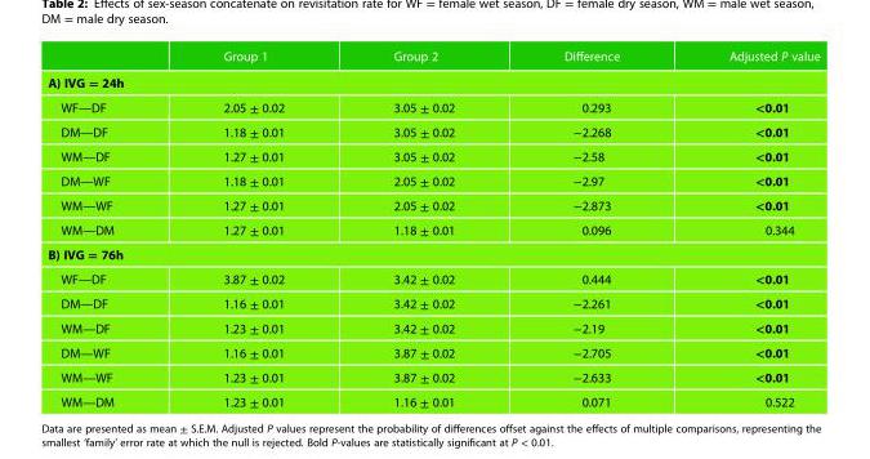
<table><thead><tr><td></td><td>Group 1</td><td>Group 2</td><td>Difference</td><td>Adjusted P value</td></tr></thead><tbody><tr><td colspan="5">A) IVG = 24h</td></tr><tr><td>WF—DF</td><td>2.05 ± 0.02</td><td>3.05 ± 0.02</td><td>0.293</td><td>&lt;0.01</td></tr><tr><td>DM—DF</td><td>1.18 ± 0.01</td><td>3.05 ± 0.02</td><td>−2.268</td><td>&lt;0.01</td></tr><tr><td>WM—DF</td><td>1.27 ± 0.01</td><td>3.05 ± 0.02</td><td>−2.58</td><td>&lt;0.01</td></tr><tr><td>DM—WF</td><td>1.18 ± 0.01</td><td>2.05 ± 0.02</td><td>−2.97</td><td>&lt;0.01</td></tr><tr><td>WM—WF</td><td>1.27 ± 0.01</td><td>2.05 ± 0.02</td><td>−2.873</td><td>&lt;0.01</td></tr><tr><td>WM—DM</td><td>1.27 ± 0.01</td><td>1.18 ± 0.01</td><td>0.096</td><td>0.344</td></tr><tr><td colspan="5">B) IVG = 76h</td></tr><tr><td>WF—DF</td><td>3.87 ± 0.02</td><td>3.42 ± 0.02</td><td>0.444</td><td>&lt;0.01</td></tr><tr><td>DM—DF</td><td>1.16 ± 0.01</td><td>3.42 ± 0.02</td><td>−2.261</td><td>&lt;0.01</td></tr><tr><td>WM—DF</td><td>1.23 ± 0.01</td><td>3.42 ± 0.02</td><td>−2.19</td><td>&lt;0.01</td></tr><tr><td>DM—WF</td><td>1.16 ± 0.01</td><td>3.87 ± 0.02</td><td>−2.705</td><td>&lt;0.01</td></tr><tr><td>WM—WF</td><td>1.23 ± 0.01</td><td>3.87 ± 0.02</td><td>−2.633</td><td>&lt;0.01</td></tr><tr><td>WM—DM</td><td>1.23 ± 0.01</td><td>1.16 ± 0.01</td><td>0.071</td><td>0.522</td></tr></tbody></table>